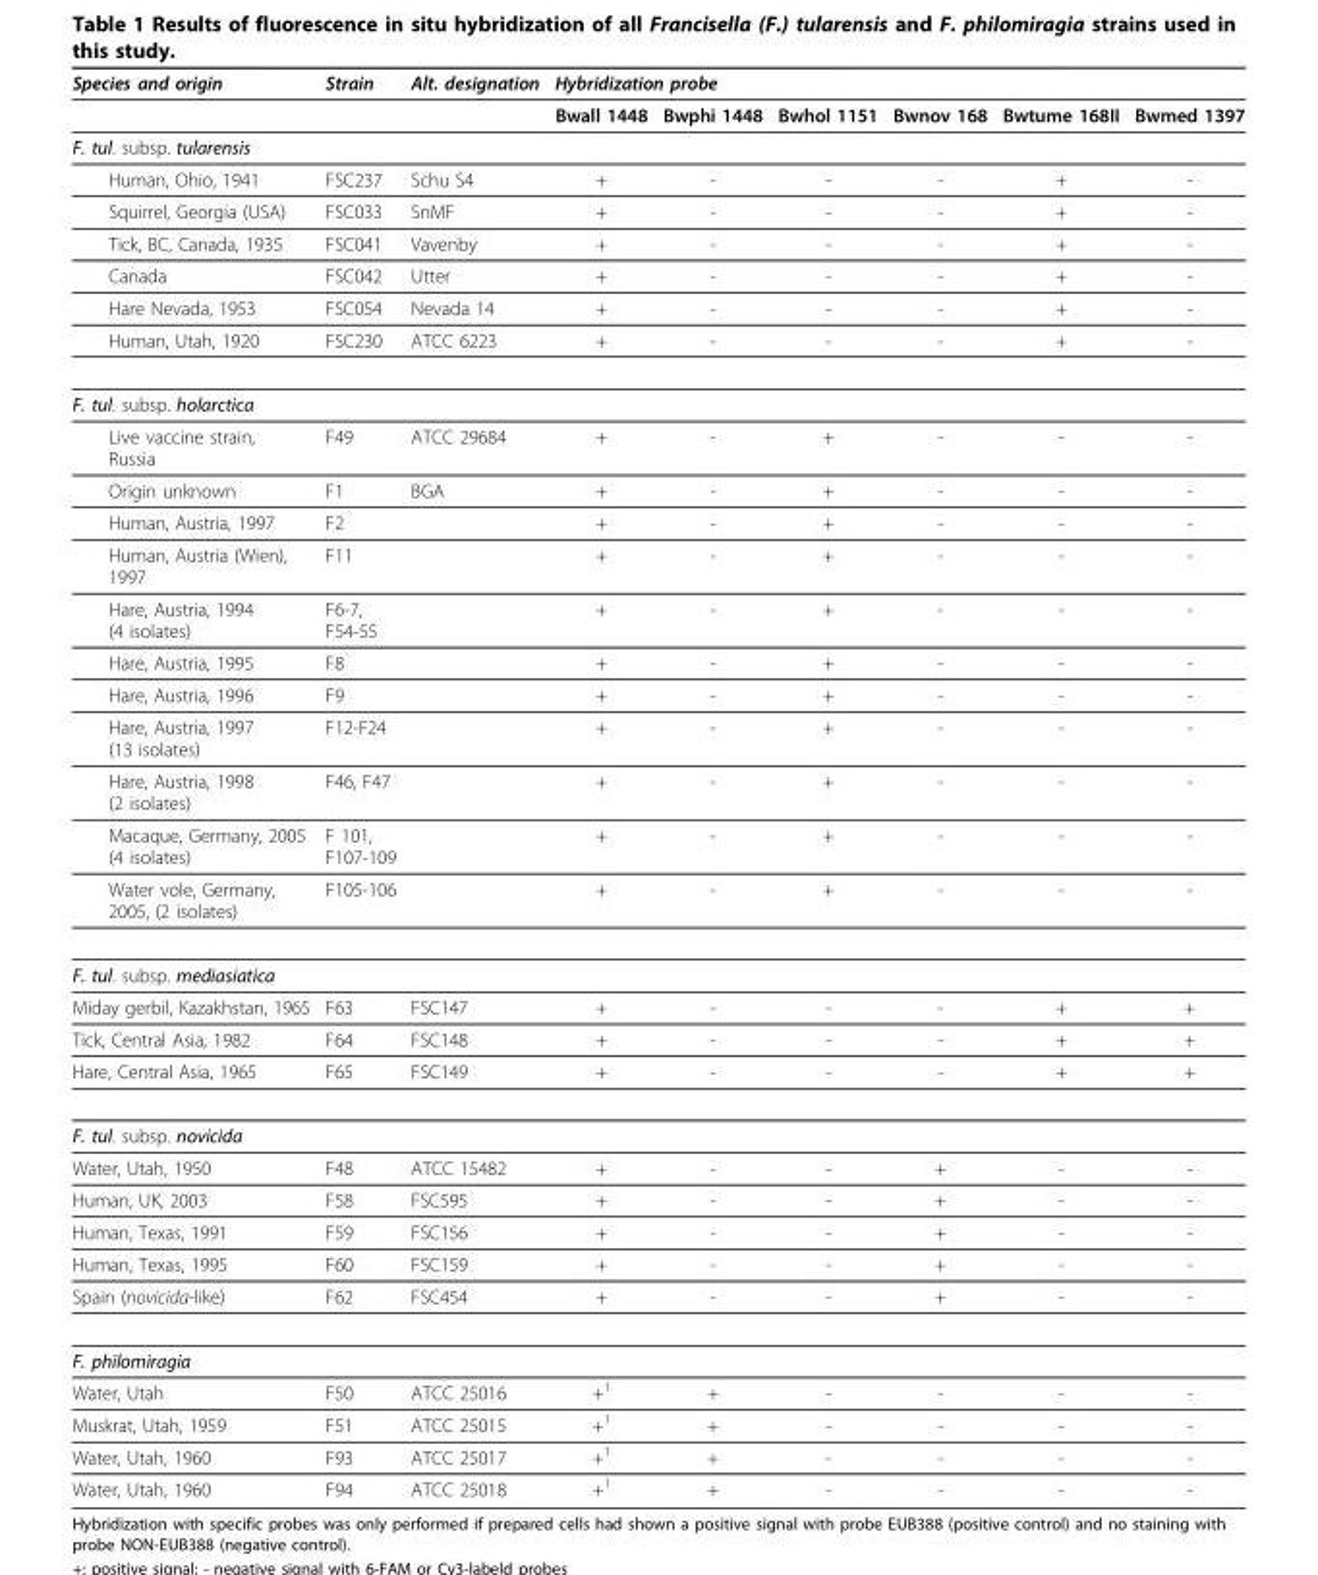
<table><thead><tr><td rowspan="2">Species and origin</td><td rowspan="2">Strain</td><td rowspan="2">Alt. designation</td><td colspan="6">Hybridization probe</td></tr><tr><td>Bwall 1448</td><td>Bwphi 1448</td><td>Bwhol 1151</td><td>Bwnov 168</td><td>Bwtume 168II</td><td>Bwmed 1397</td></tr></thead><tbody><tr><td colspan="9">F. tul. subsp. tularensis</td></tr><tr><td>Human, Ohio, 1941</td><td>FSC237</td><td>Schu S4</td><td>+</td><td>-</td><td>-</td><td>-</td><td>+</td><td>-</td></tr><tr><td>Squirrel, Georgia (USA)</td><td>FSC033</td><td>SnMF</td><td>+</td><td>-</td><td>-</td><td>-</td><td>+</td><td>-</td></tr><tr><td>Tick, BC, Canada, 1935</td><td>FSC041</td><td>Vavenby</td><td>+</td><td>-</td><td>-</td><td>-</td><td>+</td><td>-</td></tr><tr><td>Canada</td><td>FSC042</td><td>Utter</td><td>+</td><td>-</td><td>-</td><td>-</td><td>+</td><td>-</td></tr><tr><td>Hare Nevada, 1953</td><td>FSC054</td><td>Nevada 14</td><td>+</td><td>-</td><td>-</td><td>-</td><td>+</td><td>-</td></tr><tr><td>Human, Utah, 1920</td><td>FSC230</td><td>ATCC 6223</td><td>+</td><td>-</td><td>-</td><td>-</td><td>+</td><td>-</td></tr><tr><td colspan="9">F. tul. subsp. holarctica</td></tr><tr><td>Live vaccine strain, Russia</td><td>F49</td><td>ATCC 29684</td><td>+</td><td>-</td><td>+</td><td>-</td><td>-</td><td>-</td></tr><tr><td>Origin unknown</td><td>F1</td><td>BGA</td><td>+</td><td>-</td><td>+</td><td>-</td><td>-</td><td>-</td></tr><tr><td>Human, Austria, 1997</td><td>F2</td><td></td><td>+</td><td>-</td><td>+</td><td>-</td><td>-</td><td>-</td></tr><tr><td>Human, Austria (Wien), 1997</td><td>F11</td><td></td><td>+</td><td>-</td><td>+</td><td>-</td><td>-</td><td>-</td></tr><tr><td>Hare, Austria, 1994 (4 isolates)</td><td>F6-7, F54-55</td><td></td><td>+</td><td>-</td><td>+</td><td>-</td><td>-</td><td>-</td></tr><tr><td>Hare, Austria, 1995</td><td>F8</td><td></td><td>+</td><td>-</td><td>+</td><td>-</td><td>-</td><td>-</td></tr><tr><td>Hare, Austria, 1996</td><td>F9</td><td></td><td>+</td><td>-</td><td>+</td><td>-</td><td>-</td><td>-</td></tr><tr><td>Hare, Austria, 1997 (13 isolates)</td><td>F12-F24</td><td></td><td>+</td><td>-</td><td>+</td><td>-</td><td>-</td><td>-</td></tr><tr><td>Hare, Austria, 1998 (2 isolates)</td><td>F46, F47</td><td></td><td>+</td><td>-</td><td>+</td><td>-</td><td>-</td><td>-</td></tr><tr><td>Macaque, Germany, 2005 (4 isolates)</td><td>F 101, F107-109</td><td></td><td>+</td><td>-</td><td>+</td><td>-</td><td>-</td><td>-</td></tr><tr><td>Water vole, Germany, 2005, (2 isolates)</td><td>F105-106</td><td></td><td>+</td><td>-</td><td>+</td><td>-</td><td>-</td><td>-</td></tr><tr><td colspan="9">F. tul. subsp. mediasiatica</td></tr><tr><td>Miday gerbil, Kazakhstan, 1965</td><td>F63</td><td>FSC147</td><td>+</td><td>-</td><td>-</td><td>-</td><td>+</td><td>+</td></tr><tr><td>Tick, Central Asia, 1982</td><td>F64</td><td>FSC148</td><td>+</td><td>-</td><td>-</td><td>-</td><td>+</td><td>+</td></tr><tr><td>Hare, Central Asia, 1965</td><td>F65</td><td>FSC149</td><td>+</td><td>-</td><td>-</td><td>-</td><td>+</td><td>+</td></tr><tr><td colspan="9">F. tul. subsp. novicida</td></tr><tr><td>Water, Utah, 1950</td><td>F48</td><td>ATCC 15482</td><td>+</td><td>-</td><td>-</td><td>+</td><td>-</td><td>-</td></tr><tr><td>Human, UK, 2003</td><td>F58</td><td>FSC595</td><td>+</td><td>-</td><td>-</td><td>+</td><td>-</td><td>-</td></tr><tr><td>Human, Texas, 1991</td><td>F59</td><td>FSC156</td><td>+</td><td>-</td><td>-</td><td>+</td><td>-</td><td>-</td></tr><tr><td>Human, Texas, 1995</td><td>F60</td><td>FSC159</td><td>+</td><td>-</td><td>-</td><td>+</td><td>-</td><td>-</td></tr><tr><td>Spain (novicida-like)</td><td>F62</td><td>FSC454</td><td>+</td><td>-</td><td>-</td><td>+</td><td>-</td><td>-</td></tr><tr><td colspan="9">F. philomiragia</td></tr><tr><td>Water, Utah</td><td>F50</td><td>ATCC 25016</td><td>+1</td><td>+</td><td>-</td><td>-</td><td>-</td><td>-</td></tr><tr><td>Muskrat, Utah, 1959</td><td>F51</td><td>ATCC 25015</td><td>+1</td><td>+</td><td>-</td><td>-</td><td>-</td><td>-</td></tr><tr><td>Water, Utah, 1960</td><td>F93</td><td>ATCC 25017</td><td>+1</td><td>+</td><td>-</td><td>-</td><td>-</td><td>-</td></tr><tr><td>Water, Utah, 1960</td><td>F94</td><td>ATCC 25018</td><td>+1</td><td>+</td><td>-</td><td>-</td><td>-</td><td>-</td></tr></tbody></table>